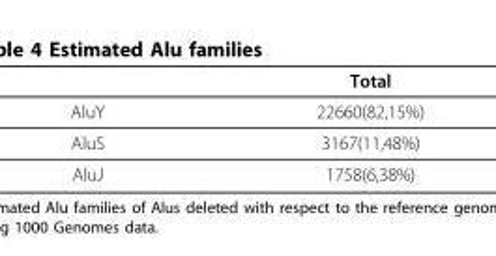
<table><thead><tr><td></td><td>Total</td></tr></thead><tbody><tr><td>AluY</td><td>22660(82,15%)</td></tr><tr><td>AluS</td><td>3167(11,48%)</td></tr><tr><td>AluJ</td><td>1758(6,38%)</td></tr></tbody></table>